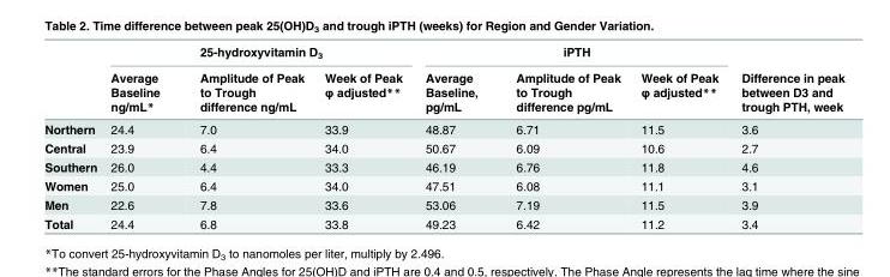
<table><thead><tr><td rowspan="2"></td><td colspan="3">25-hydroxyvitamin D<sub>3</sub></td><td colspan="3">iPTH</td><td rowspan="2">Difference in peak between D3 and trough PTH, week</td></tr><tr><td>Average Baseline ng/mL*</td><td>Amplitude of Peak to Trough difference ng/mL</td><td>Week of Peak φ adjusted**</td><td>Average Baseline, pg/mL</td><td>Amplitude of Peak to Trough difference pg/mL</td><td>Week of Peak φ adjusted**</td></tr></thead><tbody><tr><td>Northern</td><td>24.4</td><td>7.0</td><td>33.9</td><td>48.87</td><td>6.71</td><td>11.5</td><td>3.6</td></tr><tr><td>Central</td><td>23.9</td><td>6.4</td><td>34.0</td><td>50.67</td><td>6.09</td><td>10.6</td><td>2.7</td></tr><tr><td>Southern</td><td>26.0</td><td>4.4</td><td>33.3</td><td>46.19</td><td>6.76</td><td>11.8</td><td>4.6</td></tr><tr><td>Women</td><td>25.0</td><td>6.4</td><td>34.0</td><td>47.51</td><td>6.08</td><td>11.1</td><td>3.1</td></tr><tr><td>Men</td><td>22.6</td><td>7.8</td><td>33.6</td><td>53.06</td><td>7.19</td><td>11.5</td><td>3.9</td></tr><tr><td>Total</td><td>24.4</td><td>6.8</td><td>33.8</td><td>49.23</td><td>6.42</td><td>11.2</td><td>3.4</td></tr></tbody></table>